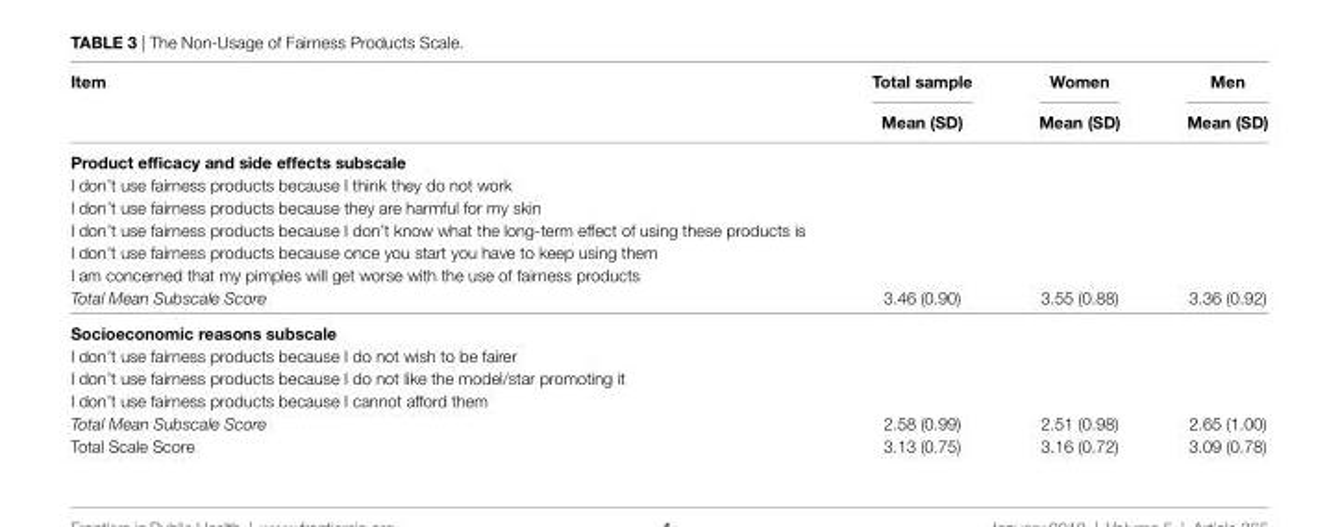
<table><thead><tr><td rowspan="2">item</td><td rowspan="2">Total sample Mean (sD)</td><td rowspan="2">Women Mean (sD)</td><td rowspan="2">Men Mean (sD)</td></tr><tr></tr></thead><tbody><tr><td colspan="4">Product efficacy and side effects subscale</td></tr><tr><td colspan="4">I don’t use fairness products because I think they do not work</td></tr><tr><td colspan="4">I don’t use fairness products because they are harmful for my skin</td></tr><tr><td colspan="4">I don’t use fairness products because I don’t know what the long-term effect of using these products is</td></tr><tr><td colspan="4">I don’t use fairness products because once you start you have to keep using them</td></tr><tr><td colspan="4">I am concerned that my pimples will get worse with the use of fairness products</td></tr><tr><td>Total Mean Subscale Score</td><td>3.46 (0.90)</td><td>3.55 (0.88)</td><td>3.36 (0.92)</td></tr><tr><td colspan="4">socioeconomic reasons subscale</td></tr><tr><td colspan="4">I don’t use fairness products because I do not wish to be fairer</td></tr><tr><td colspan="4">I don’t use fairness products because I do not like the model/star promoting it</td></tr><tr><td colspan="4">I don’t use fairness products because I cannot afford them</td></tr><tr><td>Total Mean Subscale Score</td><td>2.58 (0.99)</td><td>2.51 (0.98)</td><td>2.65 (1.00)</td></tr><tr><td>Total Scale Score</td><td>3.13 (0.75)</td><td>3.16 (0.72)</td><td>3.09 (0.78)</td></tr></tbody></table>